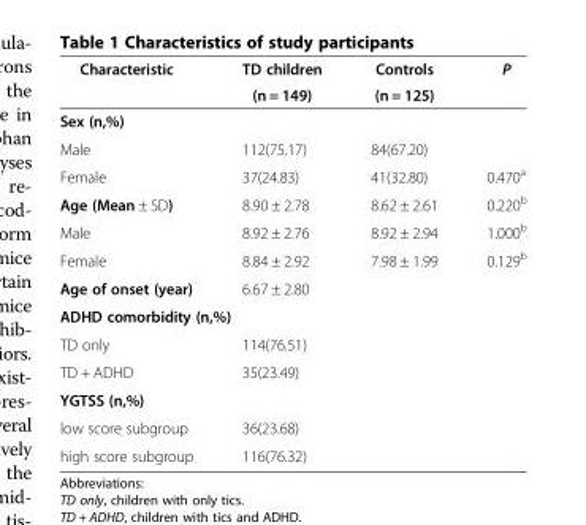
<table><thead><tr><td rowspan="2">Characteristic</td><td rowspan="2">TD children (n = 149)</td><td rowspan="2">Controls (n = 125)</td><td rowspan="2">P</td></tr><tr></tr></thead><tbody><tr><td colspan="4">Sex (n,%)</td></tr><tr><td>Male</td><td>112(75.17)</td><td>84(67.20)</td><td></td></tr><tr><td>Female</td><td>37(24.83)</td><td>41(32.80)</td><td>0.470<sup>a</sup></td></tr><tr><td>Age (Mean ± SD)</td><td>8.90 ± 2.78</td><td>8.62 ± 2.61</td><td>0.220<sup>b</sup></td></tr><tr><td>Male</td><td>8.92 ± 2.76</td><td>8.92 ± 2.94</td><td>1.000<sup>b</sup></td></tr><tr><td>Female</td><td>8.84 ± 2.92</td><td>7.98 ± 1.99</td><td>0.129<sup>b</sup></td></tr><tr><td>Age of onset (year)</td><td>6.67 ± 2.80</td><td></td><td></td></tr><tr><td colspan="4">ADHD comorbidity (n,%)</td></tr><tr><td>TD only</td><td>114(76.51)</td><td></td><td></td></tr><tr><td>TD + ADHD</td><td>35(23.49)</td><td></td><td></td></tr><tr><td colspan="4">YGTSS (n,%)</td></tr><tr><td>low score subgroup</td><td>36(23.68)</td><td></td><td></td></tr><tr><td>high score subgroup</td><td>116(76.32)</td><td></td><td></td></tr></tbody></table>